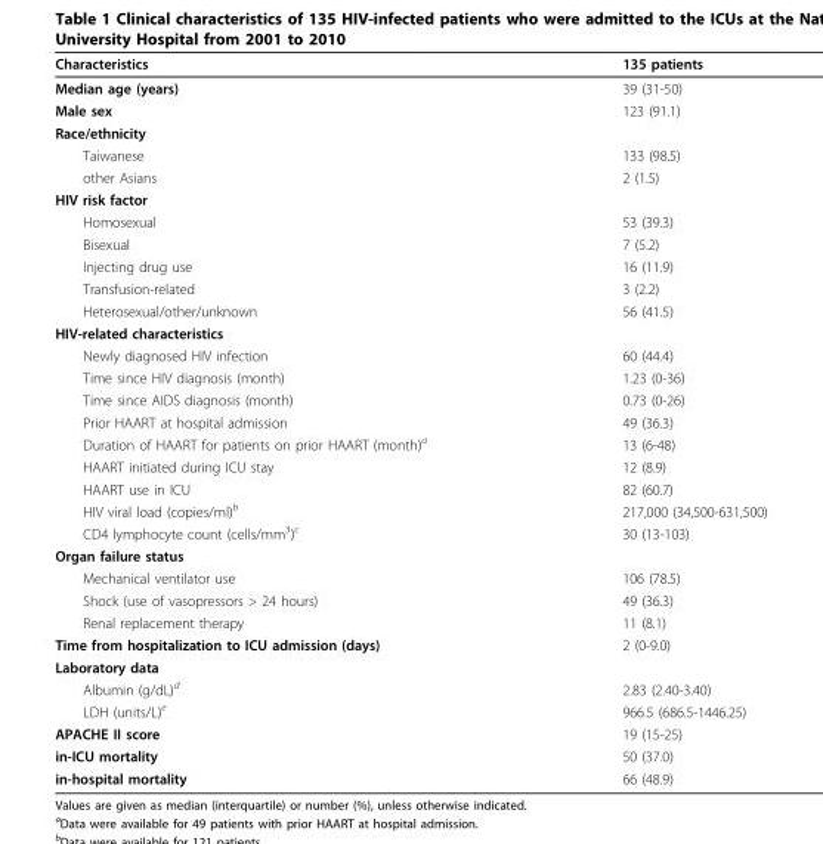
<table><thead><tr><td>Characteristics</td><td>135 patients</td></tr></thead><tbody><tr><td>Median age (years)</td><td>39 (31-50)</td></tr><tr><td>Male sex</td><td>123 (91.1)</td></tr><tr><td colspan="2">Race/ethnicity</td></tr><tr><td>Taiwanese</td><td>133 (98.5)</td></tr><tr><td>other Asians</td><td>2 (1.5)</td></tr><tr><td colspan="2">HIV risk factor</td></tr><tr><td>Homosexual</td><td>53 (39.3)</td></tr><tr><td>Bisexual</td><td>7 (5.2)</td></tr><tr><td>Injecting drug use</td><td>16 (11.9)</td></tr><tr><td>Transfusion-related</td><td>3 (2.2)</td></tr><tr><td>Heterosexual/other/unknown</td><td>56 (41.5)</td></tr><tr><td colspan="2">HIV-related characteristics</td></tr><tr><td>Newly diagnosed HIV infection</td><td>60 (44.4)</td></tr><tr><td>Time since HIV diagnosis (month)</td><td>1.23 (0-36)</td></tr><tr><td>Time since AIDS diagnosis (month)</td><td>0.73 (0-26)</td></tr><tr><td>Prior HAART at hospital admission</td><td>49 (36.3)</td></tr><tr><td>Duration of HAART for patients on prior HAART (month)<sup>a</sup></td><td>13 (6-48)</td></tr><tr><td>HAART initiated during ICU stay</td><td>12 (8.9)</td></tr><tr><td>HAART use in ICU</td><td>82 (60.7)</td></tr><tr><td>HIV viral load (copies/ml)<sup>b</sup></td><td>217,000 (34,500-631,500)</td></tr><tr><td>CD4 lymphocyte count (cells/mm<sup>3</sup>)<sup>c</sup></td><td>30 (13-103)</td></tr><tr><td colspan="2">Organ failure status</td></tr><tr><td>Mechanical ventilator use</td><td>106 (78.5)</td></tr><tr><td>Shock (use of vasopressors &gt; 24 hours)</td><td>49 (36.3)</td></tr><tr><td>Renal replacement therapy</td><td>11 (8.1)</td></tr><tr><td>Time from hospitalization to ICU admission (days)</td><td>2 (0-9.0)</td></tr><tr><td colspan="2">Laboratory data</td></tr><tr><td>Albumin (g/dL)<sup>d</sup></td><td>2.83 (2.40-3.40)</td></tr><tr><td>LDH (units/L)<sup>e</sup></td><td>966.5 (686.5-1446.25)</td></tr><tr><td>APACHE II score</td><td>19 (15-25)</td></tr><tr><td>in-ICU mortality</td><td>50 (37.0)</td></tr><tr><td>in-hospital mortality</td><td>66 (48.9)</td></tr></tbody></table>